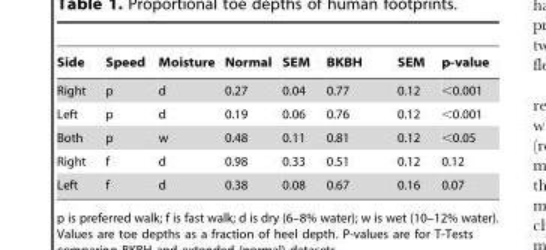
<table><thead><tr><td>Side</td><td>Speed</td><td>Moisture</td><td>Normal</td><td>SEM</td><td>BKBH</td><td>SEM</td><td>p-value</td></tr></thead><tbody><tr><td>Right</td><td>p</td><td>d</td><td>0.27</td><td>0.04</td><td>0.77</td><td>0.12</td><td>&lt;0.001</td></tr><tr><td>Left</td><td>p</td><td>d</td><td>0.19</td><td>0.06</td><td>0.76</td><td>0.12</td><td>&lt;0.001</td></tr><tr><td>Both</td><td>p</td><td>w</td><td>0.48</td><td>0.11</td><td>0.81</td><td>0.12</td><td>&lt;0.05</td></tr><tr><td>Right</td><td>f</td><td>d</td><td>0.98</td><td>0.33</td><td>0.51</td><td>0.12</td><td>0.12</td></tr><tr><td>Left</td><td>f</td><td>d</td><td>0.38</td><td>0.08</td><td>0.67</td><td>0.16</td><td>0.07</td></tr></tbody></table>